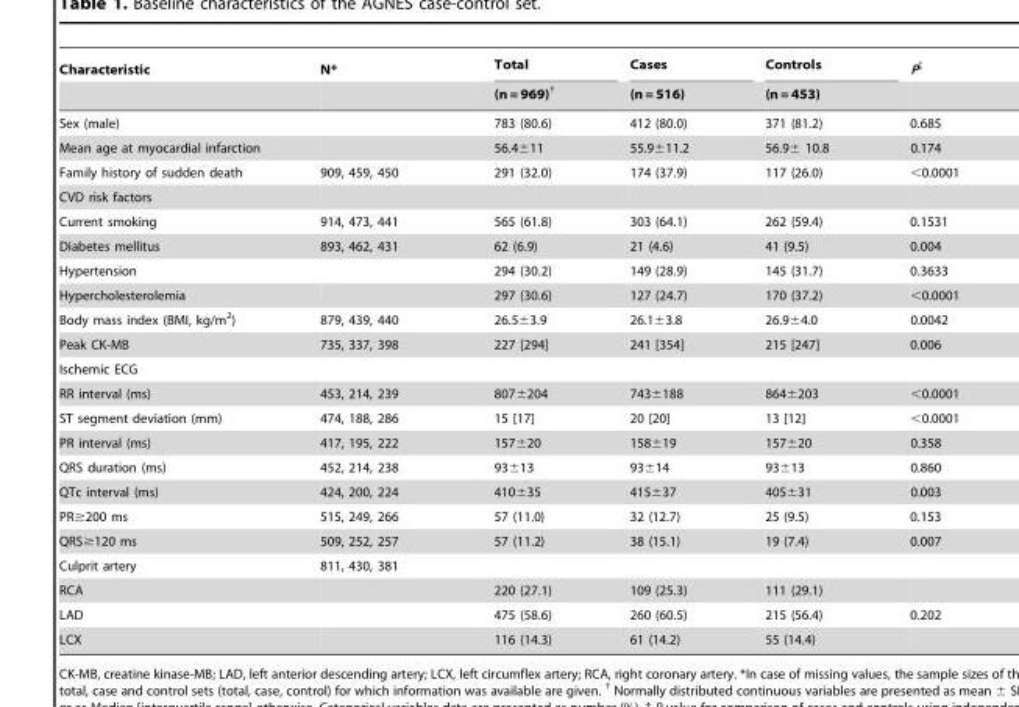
<table><thead><tr><td rowspan="2">Characteristic</td><td rowspan="2">N*</td><td rowspan="2">Total (n = 969)<sup>†</sup></td><td rowspan="2">Cases (n = 516)</td><td rowspan="2">Controls (n = 453)</td><td rowspan="2">P<sup>‡</sup></td></tr><tr></tr></thead><tbody><tr><td>Sex (male)</td><td></td><td>783 (80.6)</td><td>412 (80.0)</td><td>371 (81.2)</td><td>0.685</td></tr><tr><td>Mean age at myocardial infarction</td><td></td><td>56.4±11</td><td>55.9±11.2</td><td>56.9± 10.8</td><td>0.174</td></tr><tr><td>Family history of sudden death</td><td>909, 459, 450</td><td>291 (32.0)</td><td>174 (37.9)</td><td>117 (26.0)</td><td>&lt;0.0001</td></tr><tr><td colspan="6">CVD risk factors</td></tr><tr><td>Current smoking</td><td>914, 473, 441</td><td>565 (61.8)</td><td>303 (64.1)</td><td>262 (59.4)</td><td>0.1531</td></tr><tr><td>Diabetes mellitus</td><td>893, 462, 431</td><td>62 (6.9)</td><td>21 (4.6)</td><td>41 (9.5)</td><td>0.004</td></tr><tr><td>Hypertension</td><td></td><td>294 (30.2)</td><td>149 (28.9)</td><td>145 (31.7)</td><td>0.3633</td></tr><tr><td>Hypercholesterolemia</td><td></td><td>297 (30.6)</td><td>127 (24.7)</td><td>170 (37.2)</td><td>&lt;0.0001</td></tr><tr><td>Body mass index (BMI, kg/m<sup>2</sup>)</td><td>879, 439, 440</td><td>26.5±3.9</td><td>26.1±3.8</td><td>26.9±4.0</td><td>0.0042</td></tr><tr><td>Peak CK-MB</td><td>735, 337, 398</td><td>227 [294]</td><td>241 [354]</td><td>215 [247]</td><td>0.006</td></tr><tr><td colspan="6">Ischemic ECG</td></tr><tr><td>RR interval (ms)</td><td>453, 214, 239</td><td>807±204</td><td>743±188</td><td>864±203</td><td>&lt;0.0001</td></tr><tr><td>ST segment deviation (mm)</td><td>474, 188, 286</td><td>15 [17]</td><td>20 [20]</td><td>13 [12]</td><td>&lt;0.0001</td></tr><tr><td>PR interval (ms)</td><td>417, 195, 222</td><td>157±20</td><td>158±19</td><td>157±20</td><td>0.358</td></tr><tr><td>QRS duration (ms)</td><td>452, 214, 238</td><td>93±13</td><td>93±14</td><td>93±13</td><td>0.860</td></tr><tr><td>QTc interval (ms)</td><td>424, 200, 224</td><td>410±35</td><td>415±37</td><td>405±31</td><td>0.003</td></tr><tr><td>PR≥200 ms</td><td>515, 249, 266</td><td>57 (11.0)</td><td>32 (12.7)</td><td>25 (9.5)</td><td>0.153</td></tr><tr><td>QRS≥120 ms</td><td>509, 252, 257</td><td>57 (11.2)</td><td>38 (15.1)</td><td>19 (7.4)</td><td>0.007</td></tr><tr><td>Culprit artery</td><td>811, 430, 381</td><td></td><td></td><td></td><td></td></tr><tr><td>RCA</td><td></td><td>220 (27.1)</td><td>109 (25.3)</td><td>111 (29.1)</td><td></td></tr><tr><td>LAD</td><td></td><td>475 (58.6)</td><td>260 (60.5)</td><td>215 (56.4)</td><td>0.202</td></tr><tr><td>LCX</td><td></td><td>116 (14.3)</td><td>61 (14.2)</td><td>55 (14.4)</td><td></td></tr></tbody></table>